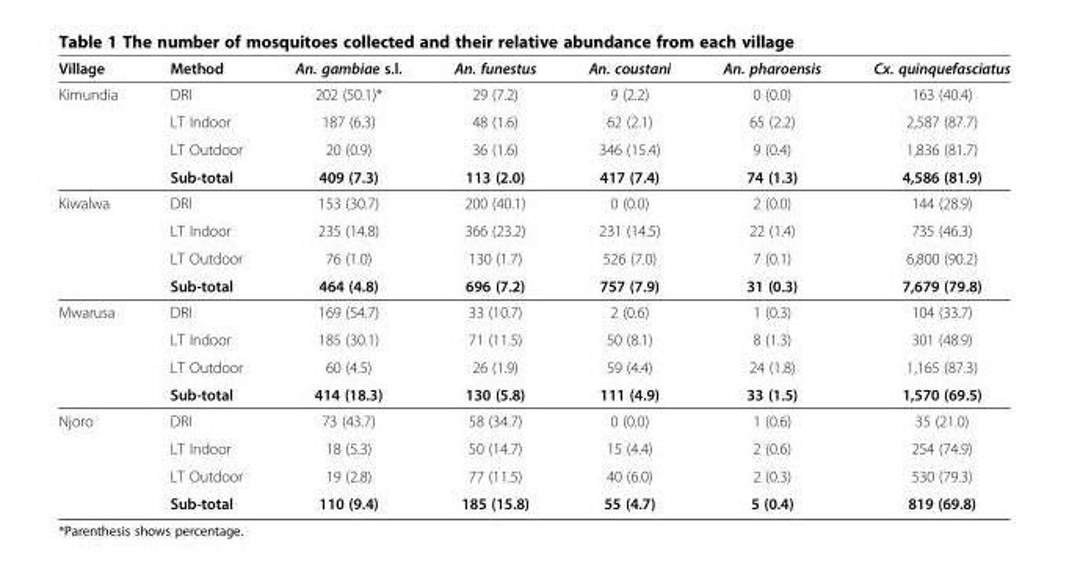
<table><thead><tr><td>Village</td><td>Method</td><td>An. gambiae s.l.</td><td>An. funestus</td><td>An. coustani</td><td>An. pharoensis</td><td>Cx. quinquefasciatus</td></tr></thead><tbody><tr><td rowspan="4">Kimundia</td><td>DRI</td><td>202 (50.1)*</td><td>29 (7.2)</td><td>9 (2.2)</td><td>0 (0.0)</td><td>163 (40.4)</td></tr><tr><td>LT Indoor</td><td>187 (6.3)</td><td>48 (1.6)</td><td>62 (2.1)</td><td>65 (2.2)</td><td>2,587 (87.7)</td></tr><tr><td>LT Outdoor</td><td>20 (0.9)</td><td>36 (1.6)</td><td>346 (15.4)</td><td>9 (0.4)</td><td>1,836 (81.7)</td></tr><tr><td>Sub-total</td><td>409 (7.3)</td><td>113 (2.0)</td><td>417 (7.4)</td><td>74 (1.3)</td><td>4,586 (81.9)</td></tr><tr><td rowspan="4">Kiwalwa</td><td>DRI</td><td>153 (30.7)</td><td>200 (40.1)</td><td>0 (0.0)</td><td>2 (0.0)</td><td>144 (28.9)</td></tr><tr><td>LT Indoor</td><td>235 (14.8)</td><td>366 (23.2)</td><td>231 (14.5)</td><td>22 (1.4)</td><td>735 (46.3)</td></tr><tr><td>LT Outdoor</td><td>76 (1.0)</td><td>130 (1.7)</td><td>526 (7.0)</td><td>7 (0.1)</td><td>6,800 (90.2)</td></tr><tr><td>Sub-total</td><td>464 (4.8)</td><td>696 (7.2)</td><td>757 (7.9)</td><td>31 (0.3)</td><td>7,679 (79.8)</td></tr><tr><td rowspan="4">Mwarusa</td><td>DRI</td><td>169 (54.7)</td><td>33 (10.7)</td><td>2 (0.6)</td><td>1 (0.3)</td><td>104 (33.7)</td></tr><tr><td>LT Indoor</td><td>185 (30.1)</td><td>71 (11.5)</td><td>50 (8.1)</td><td>8 (1.3)</td><td>301 (48.9)</td></tr><tr><td>LT Outdoor</td><td>60 (4.5)</td><td>26 (1.9)</td><td>59 (4.4)</td><td>24 (1.8)</td><td>1,165 (87.3)</td></tr><tr><td>Sub-total</td><td>414 (18.3)</td><td>130 (5.8)</td><td>111 (4.9)</td><td>33 (1.5)</td><td>1,570 (69.5)</td></tr><tr><td rowspan="4">Njoro</td><td>DRI</td><td>73 (43.7)</td><td>58 (34.7)</td><td>0 (0.0)</td><td>1 (0.6)</td><td>35 (21.0)</td></tr><tr><td>LT Indoor</td><td>18 (5.3)</td><td>50 (14.7)</td><td>15 (4.4)</td><td>2 (0.6)</td><td>254 (74.9)</td></tr><tr><td>LT Outdoor</td><td>19 (2.8)</td><td>77 (11.5)</td><td>40 (6.0)</td><td>2 (0.3)</td><td>530 (79.3)</td></tr><tr><td>Sub-total</td><td>110 (9.4)</td><td>185 (15.8)</td><td>55 (4.7)</td><td>5 (0.4)</td><td>819 (69.8)</td></tr></tbody></table>